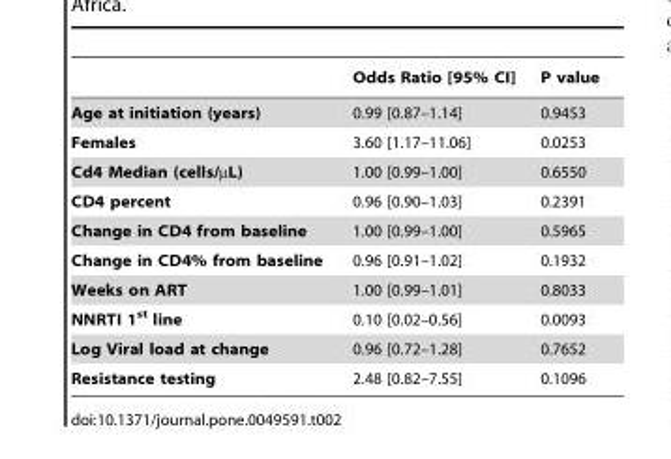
<table><thead><tr><td></td><td>Odds Ratio [95% CI]</td><td>P value</td></tr></thead><tbody><tr><td>Age at initiation (years)</td><td>0.99 [0.87–1.14]</td><td>0.9453</td></tr><tr><td>Females</td><td>3.60 [1.17–11.06]</td><td>0.0253</td></tr><tr><td>Cd4 Median (cells/µL)</td><td>1.00 [0.99–1.00]</td><td>0.6550</td></tr><tr><td>CD4 percent</td><td>0.96 [0.90–1.03]</td><td>0.2391</td></tr><tr><td>Change in CD4 from baseline</td><td>1.00 [0.99–1.00]</td><td>0.5965</td></tr><tr><td>Change in CD4% from baseline</td><td>0.96 [0.91–1.02]</td><td>0.1932</td></tr><tr><td>Weeks on ART</td><td>1.00 [0.99–1.01]</td><td>0.8033</td></tr><tr><td>NNRTI 1<sup>st</sup> line</td><td>0.10 [0.02–0.56]</td><td>0.0093</td></tr><tr><td>Log Viral load at change</td><td>0.96 [0.72–1.28]</td><td>0.7652</td></tr><tr><td>Resistance testing</td><td>2.48 [0.82–7.55]</td><td>0.1096</td></tr></tbody></table>